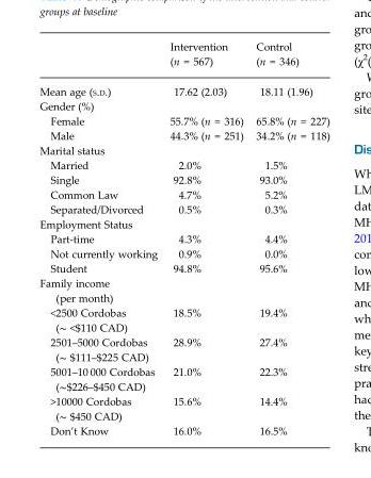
<table><thead><tr><td></td><td>Intervention (n = 567)</td><td>Control (n = 346)</td></tr></thead><tbody><tr><td>Mean age (S.D.)</td><td>17.62 (2.03)</td><td>18.11 (1.96)</td></tr><tr><td colspan="3">Gender (%)</td></tr><tr><td>Female</td><td>55.7% (n = 316)</td><td>65.8% (n = 227)</td></tr><tr><td>Male</td><td>44.3% (n = 251)</td><td>34.2% (n = 118)</td></tr><tr><td colspan="3">Marital status</td></tr><tr><td>Married</td><td>2.0%</td><td>1.5%</td></tr><tr><td>Single</td><td>92.8%</td><td>93.0%</td></tr><tr><td>Common Law</td><td>4.7%</td><td>5.2%</td></tr><tr><td>Separated/Divorced</td><td>0.5%</td><td>0.3%</td></tr><tr><td colspan="3">Employment Status</td></tr><tr><td>Part-time</td><td>4.3%</td><td>4.4%</td></tr><tr><td>Not currently working</td><td>0.9%</td><td>0.0%</td></tr><tr><td>Student</td><td>94.8%</td><td>95.6%</td></tr><tr><td colspan="3">Family income (per month)</td></tr><tr><td>&lt;2500 Cordobas (∼ &lt;$110 CAD)</td><td>18.5%</td><td>19.4%</td></tr><tr><td>2501–5000 Cordobas (∼ $111–$225 CAD)</td><td>28.9%</td><td>27.4%</td></tr><tr><td>5001–10 000 Cordobas (∼$226–$450 CAD)</td><td>21.0%</td><td>22.3%</td></tr><tr><td>&gt;10000 Cordobas (∼ $450 CAD)</td><td>15.6%</td><td>14.4%</td></tr><tr><td>Don’t Know</td><td>16.0%</td><td>16.5%</td></tr></tbody></table>